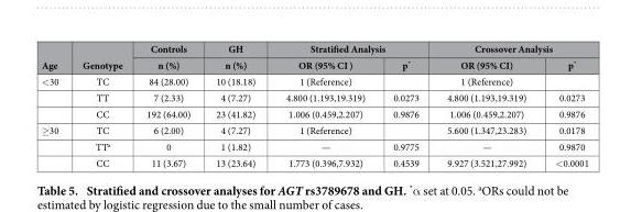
<table><thead><tr><td rowspan="2">Age</td><td rowspan="2">Genotype</td><td rowspan="2">Controls n (%)</td><td rowspan="2">GH n (%)</td><td colspan="2">Stratified Analysis</td><td colspan="2">Crossover Analysis</td></tr><tr><td>OR (95% CI )</td><td>p*</td><td>OR (95% CI)</td><td>p*</td></tr></thead><tbody><tr><td rowspan="3">&lt; 30</td><td>TC</td><td>84 (28.00)</td><td>10 (18.18)</td><td>1 (Reference)</td><td></td><td>1 (Reference)</td><td></td></tr><tr><td>TT</td><td>7 (2.33)</td><td>4 (7.27)</td><td>4.800 (1.193,19.319)</td><td>0.0273</td><td>4.800 (1.193,19.319)</td><td>0.0273</td></tr><tr><td>CC</td><td>192 (64.00)</td><td>23 (41.82)</td><td>1.006 (0.459,2.207)</td><td>0.9876</td><td>1.006 (0.459,2.207)</td><td>0.9876</td></tr><tr><td rowspan="3">≥ 30</td><td>TC</td><td>6 (2.00)</td><td>4 (7.27)</td><td>1 (Reference)</td><td></td><td>5.600 (1.347,23.283)</td><td>0.0178</td></tr><tr><td>TT<sup>a</sup></td><td>0</td><td>1 (1.82)</td><td>—</td><td>0.9775</td><td>—</td><td>0.9870</td></tr><tr><td>CC</td><td>11 (3.67)</td><td>13 (23.64)</td><td>1.773 (0.396,7.932)</td><td>0.4539</td><td>9.927 (3.521,27.992)</td><td>&lt; 0.0001</td></tr></tbody></table>